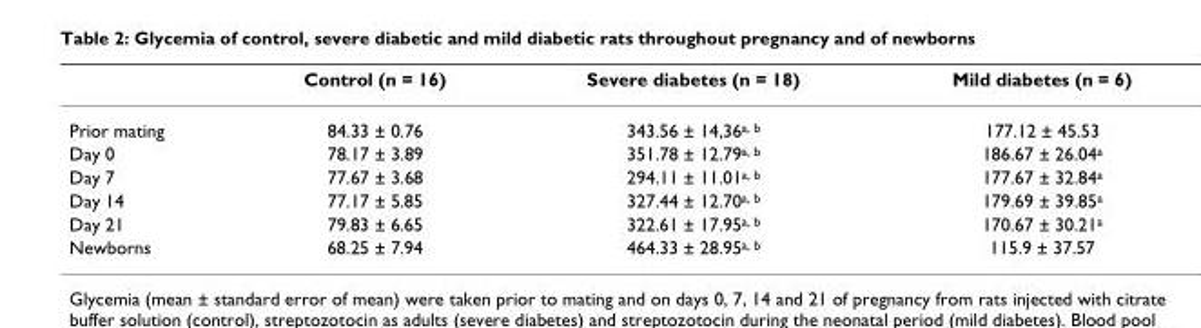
<table><thead><tr><td></td><td>Control (n = 16)</td><td>Severe diabetes (n = 18)</td><td>Mild diabetes (n = 6)</td></tr></thead><tbody><tr><td>Prior mating</td><td>84.33 ± 0.76</td><td>343.56 ± 14,36<sup>a, b</sup></td><td>177.12 ± 45.53</td></tr><tr><td>Day 0</td><td>78.17 ± 3.89</td><td>351.78 ± 12.79<sup>a, b</sup></td><td>186.67 ± 26.04<sup>a</sup></td></tr><tr><td>Day 7</td><td>77.67 ± 3.68</td><td>294.11 ± 11.01<sup>a, b</sup></td><td>177.67 ± 32.84<sup>a</sup></td></tr><tr><td>Day 14</td><td>77.17 ± 5.85</td><td>327.44 ± 12.70<sup>a, b</sup></td><td>179.69 ± 39.85<sup>a</sup></td></tr><tr><td>Day 21</td><td>79.83 ± 6.65</td><td>322.61 ± 17.95<sup>a, b</sup></td><td>170.67 ± 30.21<sup>a</sup></td></tr><tr><td>Newborns</td><td>68.25 ± 7.94</td><td>464.33 ± 28.95<sup>a, b</sup></td><td>115.9 ± 37.57</td></tr></tbody></table>